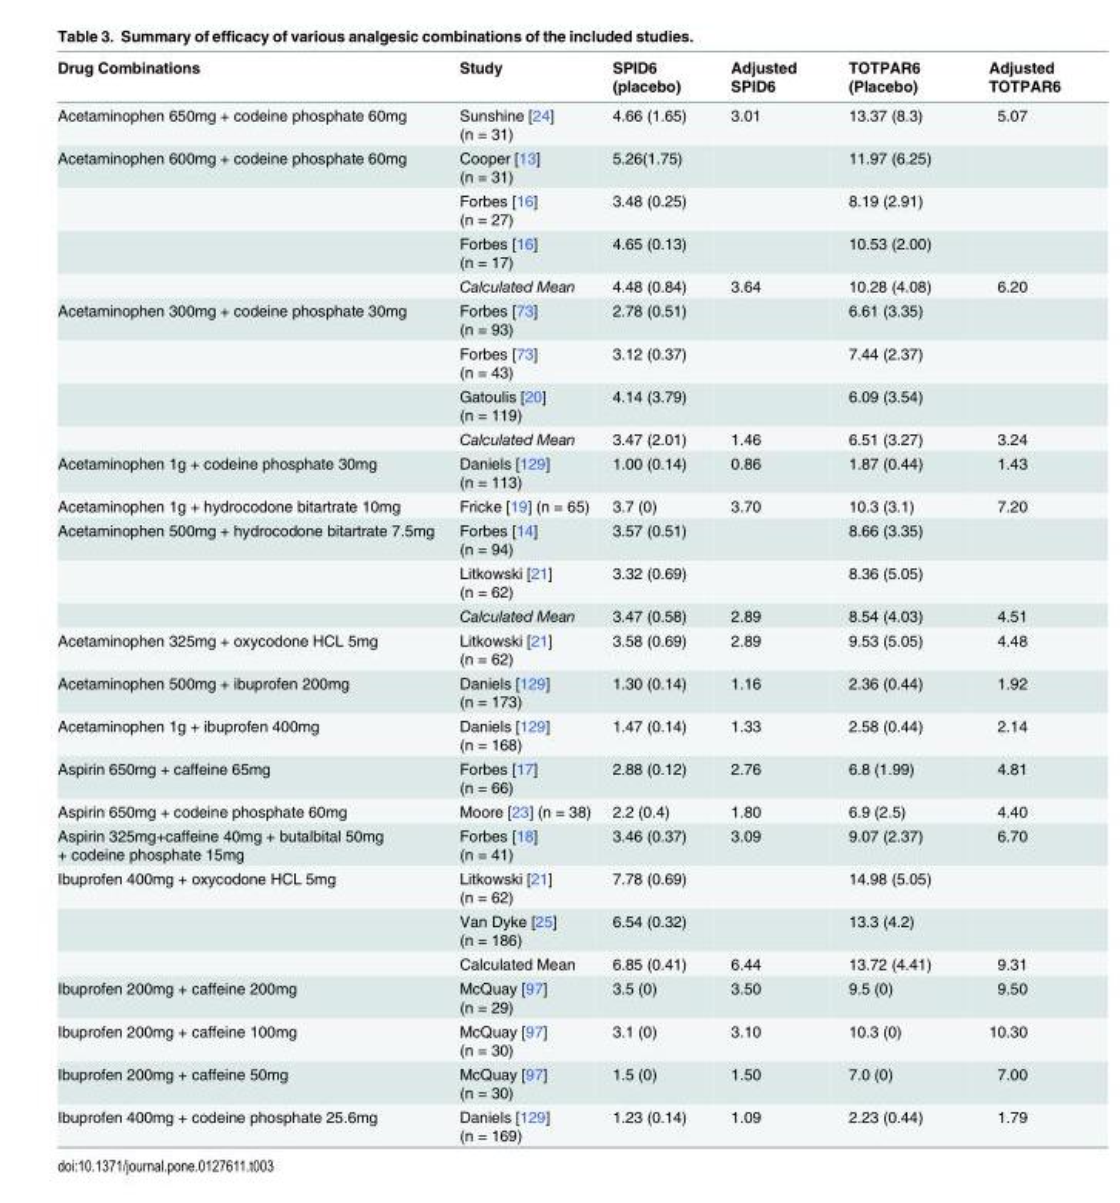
<table><thead><tr><td>Drug Combinations</td><td>Study</td><td>SPID6 (placebo)</td><td>Adjusted SPID6</td><td>TOTPAR6 (Placebo)</td><td>Adjusted TOTPAR6</td></tr></thead><tbody><tr><td>Acetaminophen 650mg + codeine phosphate 60mg</td><td>Sunshine [24] (n = 31)</td><td>4.66 (1.65)</td><td>3.01</td><td>13.37 (8.3)</td><td>5.07</td></tr><tr><td rowspan="4">Acetaminophen 600mg + codeine phosphate 60mg</td><td>Cooper [13] (n = 31)</td><td>5.26(1.75)</td><td></td><td>11.97 (6.25)</td><td></td></tr><tr><td>Forbes [16] (n = 27)</td><td>3.48 (0.25)</td><td></td><td>8.19 (2.91)</td><td></td></tr><tr><td>Forbes [16] (n = 17)</td><td>4.65 (0.13)</td><td></td><td>10.53 (2.00)</td><td></td></tr><tr><td>Calculated Mean</td><td>4.48 (0.84)</td><td>3.64</td><td>10.28 (4.08)</td><td>6.20</td></tr><tr><td rowspan="4">Acetaminophen 300mg + codeine phosphate 30mg</td><td>Forbes [73] (n = 93)</td><td>2.78 (0.51)</td><td></td><td>6.61 (3.35)</td><td></td></tr><tr><td>Forbes [73] (n = 43)</td><td>3.12 (0.37)</td><td></td><td>7.44 (2.37)</td><td></td></tr><tr><td>Gatoulis [20] (n = 119)</td><td>4.14 (3.79)</td><td></td><td>6.09 (3.54)</td><td></td></tr><tr><td>Calculated Mean</td><td>3.47 (2.01)</td><td>1.46</td><td>6.51 (3.27)</td><td>3.24</td></tr><tr><td>Acetaminophen 1g + codeine phosphate 30mg</td><td>Daniels [129] (n = 113)</td><td>1.00 (0.14)</td><td>0.86</td><td>1.87 (0.44)</td><td>1.43</td></tr><tr><td>Acetaminophen 1g + hydrocodone bitartrate 10mg</td><td>Fricke [19] (n = 65)</td><td>3.7 (0)</td><td>3.70</td><td>10.3 (3.1)</td><td>7.20</td></tr><tr><td rowspan="3">Acetaminophen 500mg + hydrocodone bitartrate 7.5mg</td><td>Forbes [14] (n = 94)</td><td>3.57 (0.51)</td><td></td><td>8.66 (3.35)</td><td></td></tr><tr><td>Litkowski [21] (n = 62)</td><td>3.32 (0.69)</td><td></td><td>8.36 (5.05)</td><td></td></tr><tr><td>Calculated Mean</td><td>3.47 (0.58)</td><td>2.89</td><td>8.54 (4.03)</td><td>4.51</td></tr><tr><td>Acetaminophen 325mg + oxycodone HCL 5mg</td><td>Litkowski [21] (n = 62)</td><td>3.58 (0.69)</td><td>2.89</td><td>9.53 (5.05)</td><td>4.48</td></tr><tr><td>Acetaminophen 500mg + ibuprofen 200mg</td><td>Daniels [129] (n = 173)</td><td>1.30 (0.14)</td><td>1.16</td><td>2.36 (0.44)</td><td>1.92</td></tr><tr><td>Acetaminophen 1g + ibuprofen 400mg</td><td>Daniels [129] (n = 168)</td><td>1.47 (0.14)</td><td>1.33</td><td>2.58 (0.44)</td><td>2.14</td></tr><tr><td>Aspirin 650mg + caffeine 65mg</td><td>Forbes [17] (n = 66)</td><td>2.88 (0.12)</td><td>2.76</td><td>6.8 (1.99)</td><td>4.81</td></tr><tr><td>Aspirin 650mg + codeine phosphate 60mg</td><td>Moore [23] (n = 38)</td><td>2.2 (0.4)</td><td>1.80</td><td>6.9 (2.5)</td><td>4.40</td></tr><tr><td>Aspirin 325mg+caffeine 40mg + butalbital 50mg + codeine phosphate 15mg</td><td>Forbes [18] (n = 41)</td><td>3.46 (0.37)</td><td>3.09</td><td>9.07 (2.37)</td><td>6.70</td></tr><tr><td rowspan="3">Ibuprofen 400mg + oxycodone HCL 5mg</td><td>Litkowski [21] (n = 62)</td><td>7.78 (0.69)</td><td></td><td>14.98 (5.05)</td><td></td></tr><tr><td>Van Dyke [25] (n = 186)</td><td>6.54 (0.32)</td><td></td><td>13.3 (4.2)</td><td></td></tr><tr><td>Calculated Mean</td><td>6.85 (0.41)</td><td>6.44</td><td>13.72 (4.41)</td><td>9.31</td></tr><tr><td>Ibuprofen 200mg + caffeine 200mg</td><td>McQuay [97] (n = 29)</td><td>3.5 (0)</td><td>3.50</td><td>9.5 (0)</td><td>9.50</td></tr><tr><td>Ibuprofen 200mg + caffeine 100mg</td><td>McQuay [97] (n = 30)</td><td>3.1 (0)</td><td>3.10</td><td>10.3 (0)</td><td>10.30</td></tr><tr><td>Ibuprofen 200mg + caffeine 50mg</td><td>McQuay [97] (n = 30)</td><td>1.5 (0)</td><td>1.50</td><td>7.0 (0)</td><td>7.00</td></tr><tr><td>Ibuprofen 400mg + codeine phosphate 25.6mg</td><td>Daniels [129] (n = 169)</td><td>1.23 (0.14)</td><td>1.09</td><td>2.23 (0.44)</td><td>1.79</td></tr></tbody></table>